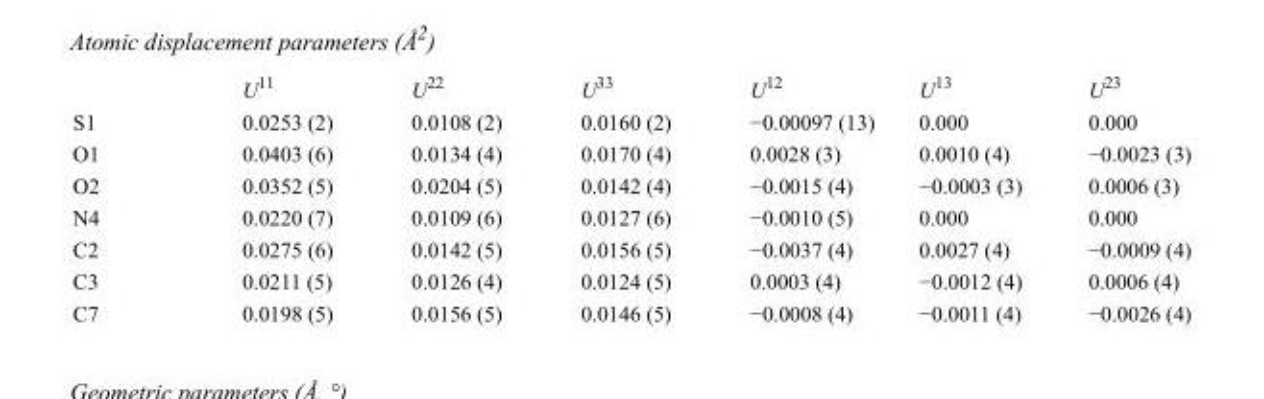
<table><thead><tr><td></td><td>U<sup>11</sup></td><td>U<sup>22</sup></td><td>U<sup>33</sup></td><td>U<sup>12</sup></td><td>U<sup>13</sup></td><td>U<sup>23</sup></td></tr></thead><tbody><tr><td>S1</td><td>0.0253 (2)</td><td>0.0108 (2)</td><td>0.0160 (2)</td><td>−0.00097 (13)</td><td>0.000</td><td>0.000</td></tr><tr><td>O1</td><td>0.0403 (6)</td><td>0.0134 (4)</td><td>0.0170 (4)</td><td>0.0028 (3)</td><td>0.0010 (4)</td><td>−0.0023 (3)</td></tr><tr><td>O2</td><td>0.0352 (5)</td><td>0.0204 (5)</td><td>0.0142 (4)</td><td>−0.0015 (4)</td><td>−0.0003 (3)</td><td>0.0006 (3)</td></tr><tr><td>N4</td><td>0.0220 (7)</td><td>0.0109 (6)</td><td>0.0127 (6)</td><td>−0.0010 (5)</td><td>0.000</td><td>0.000</td></tr><tr><td>C2</td><td>0.0275 (6)</td><td>0.0142 (5)</td><td>0.0156 (5)</td><td>−0.0037 (4)</td><td>0.0027 (4)</td><td>−0.0009 (4)</td></tr><tr><td>C3</td><td>0.0211 (5)</td><td>0.0126 (4)</td><td>0.0124 (5)</td><td>0.0003 (4)</td><td>−0.0012 (4)</td><td>0.0006 (4)</td></tr><tr><td>C7</td><td>0.0198 (5)</td><td>0.0156 (5)</td><td>0.0146 (5)</td><td>−0.0008 (4)</td><td>−0.0011 (4)</td><td>−0.0026 (4)</td></tr></tbody></table>